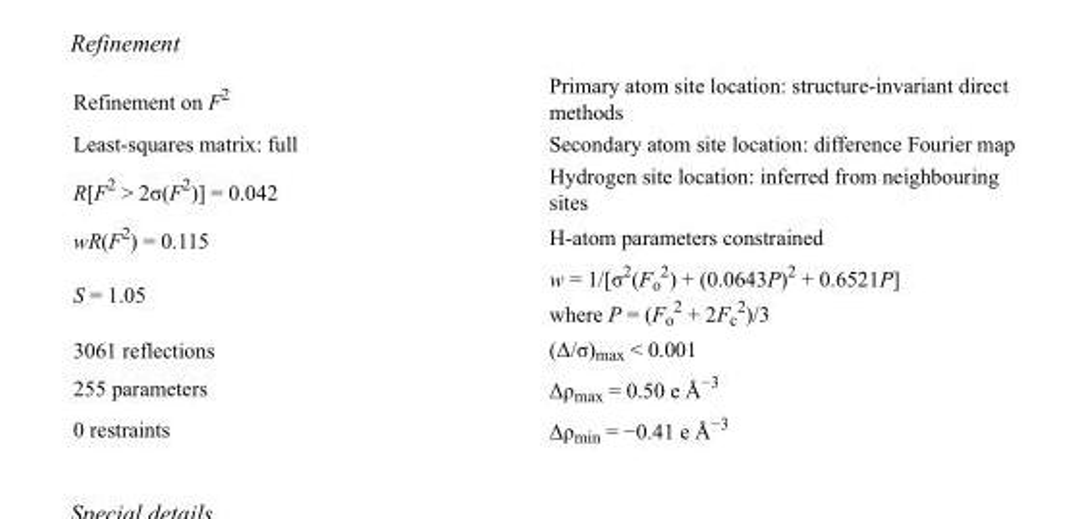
<table><tbody><tr><td>Refinement on F<sup>2</sup></td><td>Primary atom site location: structure-invariant direct methods</td></tr><tr><td>Least-squares matrix: full</td><td>Secondary atom site location: difference Fourier map</td></tr><tr><td>R[F<sup>2</sup> &gt; 2σ(F<sup>2</sup>)] = 0.042</td><td>Hydrogen site location: inferred from neighbouring sites</td></tr><tr><td>wR(F<sup>2</sup>) = 0.115</td><td>H-atom parameters constrained</td></tr><tr><td>S = 1.05</td><td>w = 1/[σ<sup>2</sup>(F<sub>o</sub> <sup>2</sup>) + (0.0643P)<sup>2</sup> + 0.6521P] where P = (F<sub>o</sub> <sup>2</sup> + 2F<sub>c</sub> <sup>2</sup>)/3</td></tr><tr><td>3061 reflections</td><td>(Δ/σ)<sub>max</sub> &lt; 0.001</td></tr><tr><td>255 parameters</td><td>Δρ<sub>max</sub> = 0.50 e Å<sup>−3</sup></td></tr><tr><td>0 restraints</td><td>Δρ<sub>min</sub> = −0.41 e Å<sup>−3</sup></td></tr></tbody></table>